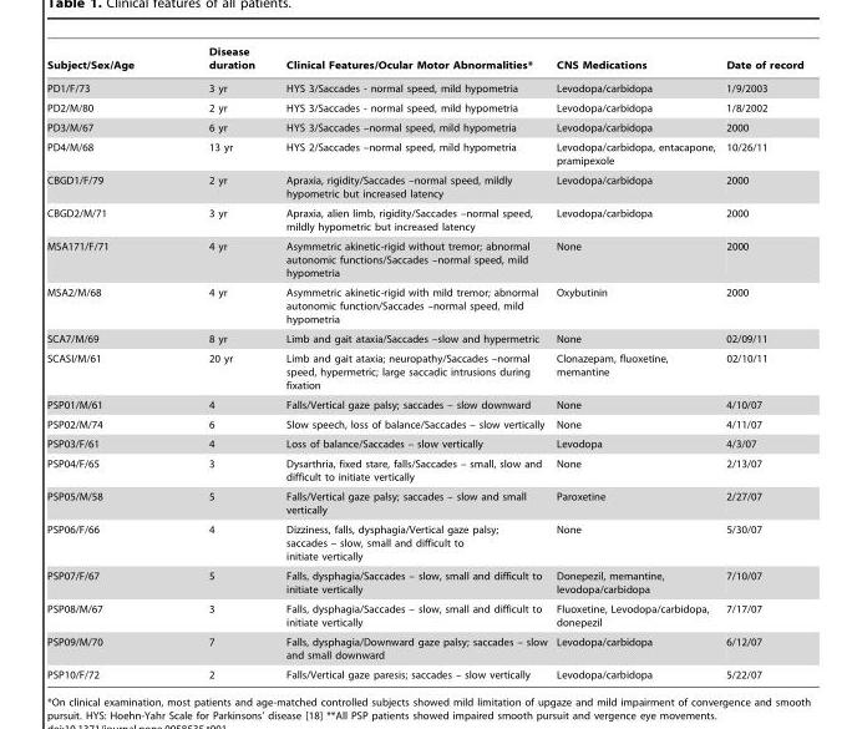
<table><thead><tr><td>Subject/Sex/Age</td><td>Disease duration</td><td>Clinical Features/Ocular Motor Abnormalities*</td><td>CNS Medications</td><td>Date of record</td></tr></thead><tbody><tr><td>PD1/F/73</td><td>3 yr</td><td>HYS 3/Saccades - normal speed, mild hypometria</td><td>Levodopa/carbidopa</td><td>1/9/2003</td></tr><tr><td>PD2/M/80</td><td>2 yr</td><td>HYS 3/Saccades - normal speed, mild hypometria</td><td>Levodopa/carbidopa</td><td>1/8/2002</td></tr><tr><td>PD3/M/67</td><td>6 yr</td><td>HYS 3/Saccades –normal speed, mild hypometria</td><td>Levodopa/carbidopa</td><td>2000</td></tr><tr><td>PD4/M/68</td><td>13 yr</td><td>HYS 2/Saccades –normal speed, mild hypometria</td><td>Levodopa/carbidopa, entacapone, pramipexole</td><td>10/26/11</td></tr><tr><td>CBGD1/F/79</td><td>2 yr</td><td>Apraxia, rigidity/Saccades –normal speed, mildly hypometric but increased latency</td><td>Levodopa/carbidopa</td><td>2000</td></tr><tr><td>CBGD2/M/71</td><td>3 yr</td><td>Apraxia, alien limb, rigidity/Saccades –normal speed, mildly hypometric but increased latency</td><td>Levodopa/carbidopa</td><td>2000</td></tr><tr><td>MSA171/F/71</td><td>4 yr</td><td>Asymmetric akinetic-rigid without tremor; abnormal autonomic functions/Saccades –normal speed, mild hypometria</td><td>None</td><td>2000</td></tr><tr><td>MSA2/M/68</td><td>4 yr</td><td>Asymmetric akinetic-rigid with mild tremor; abnormal autonomic function/Saccades –normal speed, mild hypometria</td><td>Oxybutinin</td><td>2000</td></tr><tr><td>SCA7/M/69</td><td>8 yr</td><td>Limb and gait ataxia/Saccades –slow and hypermetric</td><td>None</td><td>02/09/11</td></tr><tr><td>SCASI/M/61</td><td>20 yr</td><td>Limb and gait ataxia; neuropathy/Saccades –normal speed, hypermetric; large saccadic intrusions during fixation</td><td>Clonazepam, fluoxetine, memantine</td><td>02/10/11</td></tr><tr><td>PSP01/M/61</td><td>4</td><td>Falls/Vertical gaze palsy; saccades – slow downward</td><td>None</td><td>4/10/07</td></tr><tr><td>PSP02/M/74</td><td>6</td><td>Slow speech, loss of balance/Saccades – slow vertically</td><td>None</td><td>4/11/07</td></tr><tr><td>PSP03/F/61</td><td>4</td><td>Loss of balance/Saccades – slow vertically</td><td>Levodopa</td><td>4/3/07</td></tr><tr><td>PSP04/F/65</td><td>3</td><td>Dysarthria, fixed stare, falls/Saccades – small, slow and difficult to initiate vertically</td><td>None</td><td>2/13/07</td></tr><tr><td>PSP05/M/58</td><td>5</td><td>Falls/Vertical gaze palsy; saccades – slow and small vertically</td><td>Paroxetine</td><td>2/27/07</td></tr><tr><td>PSP06/F/66</td><td>4</td><td>Dizziness, falls, dysphagia/Vertical gaze palsy; saccades – slow, small and difficult to initiate vertically</td><td>None</td><td>5/30/07</td></tr><tr><td>PSP07/F/67</td><td>5</td><td>Falls, dysphagia/Saccades – slow, small and difficult to initiate vertically</td><td>Donepezil, memantine, levodopa/carbidopa</td><td>7/10/07</td></tr><tr><td>PSP08/M/67</td><td>3</td><td>Falls, dysphagia/Saccades – slow, small and difficult to initiate vertically</td><td>Fluoxetine, Levodopa/carbidopa, donepezil</td><td>7/17/07</td></tr><tr><td>PSP09/M/70</td><td>7</td><td>Falls, dysphagia/Downward gaze palsy; saccades – slow and small downward</td><td>Levodopa/carbidopa</td><td>6/12/07</td></tr><tr><td>PSP10/F/72</td><td>2</td><td>Falls/Vertical gaze paresis; saccades – slow vertically</td><td>Levodopa/carbidopa</td><td>5/22/07</td></tr></tbody></table>